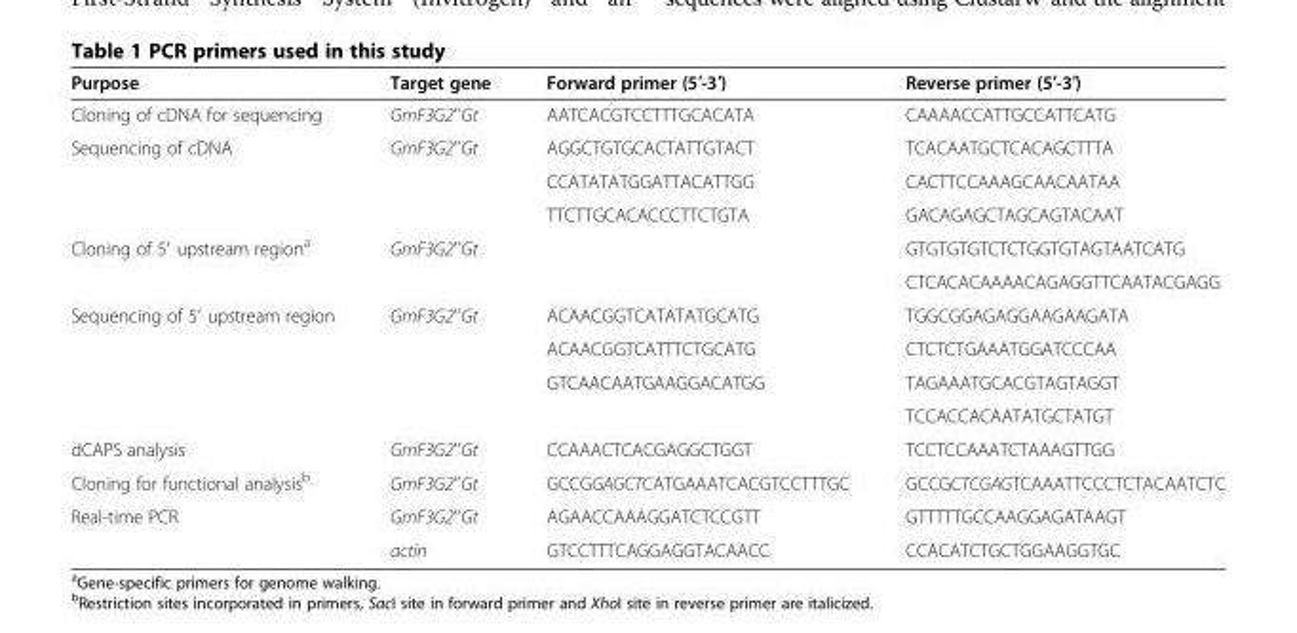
<table><thead><tr><td>Purpose</td><td>Target gene</td><td>Forward primer (5′-3′)</td><td>Reverse primer (5′-3′)</td></tr></thead><tbody><tr><td>Cloning of cDNA for sequencing</td><td>GmF3G2″Gt</td><td>AATCACGTCCTTTGCACATA</td><td>CAAAACCATTGCCATTCATG</td></tr><tr><td rowspan="3">Sequencing of cDNA</td><td rowspan="3">GmF3G2″Gt</td><td>AGGCTGTGCACTATTGTACT</td><td>TCACAATGCTCACAGCTTTA</td></tr><tr><td>CCATATATGGATTACATTGG</td><td>CACTTCCAAAGCAACAATAA</td></tr><tr><td>TTCTTGCACACCCTTCTGTA</td><td>GACAGAGCTAGCAGTACAAT</td></tr><tr><td rowspan="2">Cloning of 5′ upstream region<sup>a</sup></td><td rowspan="2">GmF3G2″Gt</td><td></td><td>GTGTGTGTCTCTGGTGTAGTAATCATG</td></tr><tr><td></td><td>CTCACACAAAACAGAGGTTCAATACGAGG</td></tr><tr><td rowspan="4">Sequencing of 5′ upstream region</td><td rowspan="4">GmF3G2″Gt</td><td>ACAACGGTCATATATGCATG</td><td>TGGCGGAGAGGAAGAAGATA</td></tr><tr><td>ACAACGGTCATTTCTGCATG</td><td>CTCTCTGAAATGGATCCCAA</td></tr><tr><td>GTCAACAATGAAGGACATGG</td><td>TAGAAATGCACGTAGTAGGT</td></tr><tr><td></td><td>TCCACCACAATATGCTATGT</td></tr><tr><td>dCAPS analysis</td><td>GmF3G2″Gt</td><td>CCAAACTCACGAGGCTGGT</td><td>TCCTCCAAATCTAAAGTTGG</td></tr><tr><td>Cloning for functional analysis<sup>b</sup></td><td>GmF3G2″Gt</td><td>GCCGGAGCTCATGAAATCACGTCCTTTGC</td><td>GCCGCTCGAGTCAAATTCCCTCTACAATCTC</td></tr><tr><td rowspan="2">Real-time PCR</td><td>GmF3G2″Gt</td><td>AGAACCAAAGGATCTCCGTT</td><td>GTTTTTGCCAAGGAGATAAGT</td></tr><tr><td>actin</td><td>GTCCTTTCAGGAGGTACAACC</td><td>CCACATCTGCTGGAAGGTGC</td></tr></tbody></table>